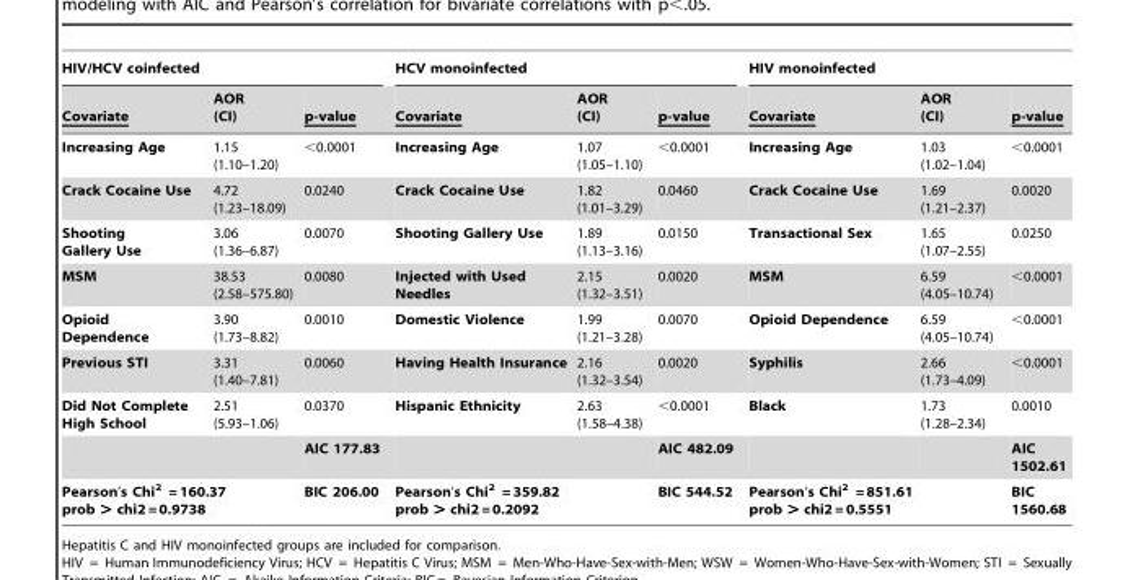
<table><thead><tr><td colspan="3">HIV/HCV coinfected</td><td colspan="3">HCV monoinfected</td><td colspan="3">HIV monoinfected</td></tr><tr><td>Covariate</td><td>AOR (CI)</td><td>p-value</td><td>Covariate</td><td>AOR (CI)</td><td>p-value</td><td>Covariate</td><td>AOR (CI)</td><td>p-value</td></tr></thead><tbody><tr><td>Increasing Age</td><td>1.15 (1.10–1.20)</td><td>&lt;0.0001</td><td>Increasing Age</td><td>1.07 (1.05–1.10)</td><td>&lt;0.0001</td><td>Increasing Age</td><td>1.03 (1.02–1.04)</td><td>&lt;0.0001</td></tr><tr><td>Crack Cocaine Use</td><td>4.72 (1.23–18.09)</td><td>0.0240</td><td>Crack Cocaine Use</td><td>1.82 (1.01–3.29)</td><td>0.0460</td><td>Crack Cocaine Use</td><td>1.69 (1.21–2.37)</td><td>0.0020</td></tr><tr><td>Shooting Gallery Use</td><td>3.06 (1.36–6.87)</td><td>0.0070</td><td>Shooting Gallery Use</td><td>1.89 (1.13–3.16)</td><td>0.0150</td><td>Transactional Sex</td><td>1.65 (1.07–2.55)</td><td>0.0250</td></tr><tr><td>MSM</td><td>38.53 (2.58–575.80)</td><td>0.0080</td><td>Injected with Used Needles</td><td>2.15 (1.32–3.51)</td><td>0.0020</td><td>MSM</td><td>6.59 (4.05–10.74)</td><td>&lt;0.0001</td></tr><tr><td>Opioid Dependence</td><td>3.90 (1.73–8.82)</td><td>0.0010</td><td>Domestic Violence</td><td>1.99 (1.21–3.28)</td><td>0.0070</td><td>Opioid Dependence</td><td>6.59 (4.05–10.74)</td><td>&lt;0.0001</td></tr><tr><td>Previous STI</td><td>3.31 (1.40–7.81)</td><td>0.0060</td><td>Having Health Insurance</td><td>2.16 (1.32–3.54)</td><td>0.0020</td><td>Syphilis</td><td>2.66 (1.73–4.09)</td><td>&lt;0.0001</td></tr><tr><td rowspan="2">Did Not Complete High School</td><td>2.51 (5.93–1.06)</td><td>0.0370</td><td>Hispanic Ethnicity</td><td>2.63 (1.58–4.38)</td><td>&lt;0.0001</td><td>Black</td><td>1.73 (1.28–2.34)</td><td>0.0010</td></tr><tr><td></td><td>AIC 177.83</td><td></td><td></td><td>AIC 482.09</td><td></td><td></td><td>AIC 1502.61</td></tr><tr><td colspan="2">Pearson’s Chi<sup>2</sup> = 160.37 prob &gt; chi2 = 0.9738</td><td>BIC 206.00</td><td colspan="2">Pearson’s Chi<sup>2</sup> = 359.82 prob &gt; chi2 = 0.2092</td><td>BIC 544.52</td><td colspan="2">Pearson’s Chi<sup>2</sup> = 851.61 prob &gt; chi2 = 0.5551</td><td>BIC 1560.68</td></tr></tbody></table>